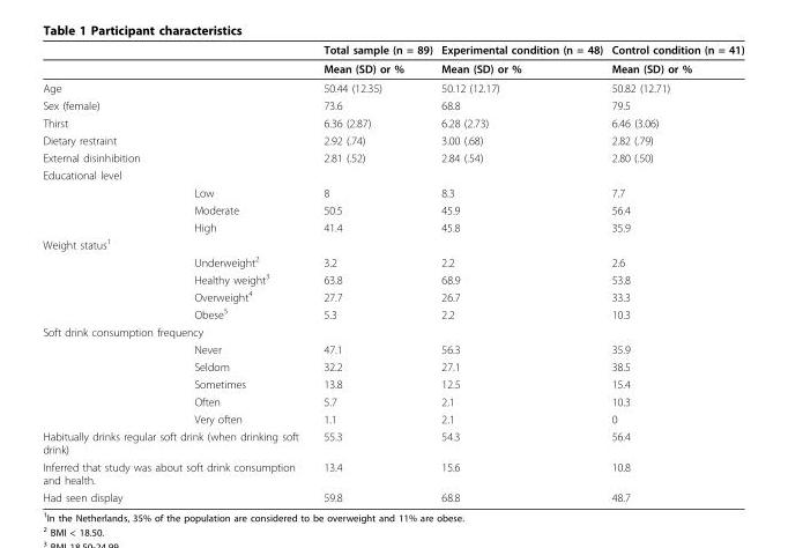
<table><thead><tr><td></td><td></td><td>Total sample (n = 89)</td><td>Experimental condition (n = 48)</td><td>Control condition (n = 41)</td></tr></thead><tbody><tr><td></td><td></td><td>Mean (SD) or %</td><td>Mean (SD) or %</td><td>Mean (SD) or %</td></tr><tr><td>Age</td><td></td><td>50.44 (12.35)</td><td>50.12 (12.17)</td><td>50.82 (12.71)</td></tr><tr><td>Sex (female)</td><td></td><td>73.6</td><td>68.8</td><td>79.5</td></tr><tr><td>Thirst</td><td></td><td>6.36 (2.87)</td><td>6.28 (2.73)</td><td>6.46 (3.06)</td></tr><tr><td>Dietary restraint</td><td></td><td>2.92 (.74)</td><td>3.00 (.68)</td><td>2.82 (.79)</td></tr><tr><td>External disinhibition</td><td></td><td>2.81 (.52)</td><td>2.84 (.54)</td><td>2.80 (.50)</td></tr><tr><td colspan="5">Educational level</td></tr><tr><td></td><td>Low</td><td>8</td><td>8.3</td><td>7.7</td></tr><tr><td></td><td>Moderate</td><td>50.5</td><td>45.9</td><td>56.4</td></tr><tr><td></td><td>High</td><td>41.4</td><td>45.8</td><td>35.9</td></tr><tr><td colspan="5">Weight status<sup>1</sup></td></tr><tr><td></td><td>Underweight<sup>2</sup></td><td>3.2</td><td>2.2</td><td>2.6</td></tr><tr><td></td><td>Healthy weight<sup>3</sup></td><td>63.8</td><td>68.9</td><td>53.8</td></tr><tr><td></td><td>Overweight<sup>4</sup></td><td>27.7</td><td>26.7</td><td>33.3</td></tr><tr><td></td><td>Obese<sup>5</sup></td><td>5.3</td><td>2.2</td><td>10.3</td></tr><tr><td colspan="5">Soft drink consumption frequency</td></tr><tr><td></td><td>Never</td><td>47.1</td><td>56.3</td><td>35.9</td></tr><tr><td></td><td>Seldom</td><td>32.2</td><td>27.1</td><td>38.5</td></tr><tr><td></td><td>Sometimes</td><td>13.8</td><td>12.5</td><td>15.4</td></tr><tr><td></td><td>Often</td><td>5.7</td><td>2.1</td><td>10.3</td></tr><tr><td></td><td>Very often</td><td>1.1</td><td>2.1</td><td>0</td></tr><tr><td colspan="2">Habitually drinks regular soft drink (when drinking soft drink)</td><td>55.3</td><td>54.3</td><td>56.4</td></tr><tr><td colspan="2">Inferred that study was about soft drink consumption and health.</td><td>13.4</td><td>15.6</td><td>10.8</td></tr><tr><td colspan="2">Had seen display</td><td>59.8</td><td>68.8</td><td>48.7</td></tr></tbody></table>